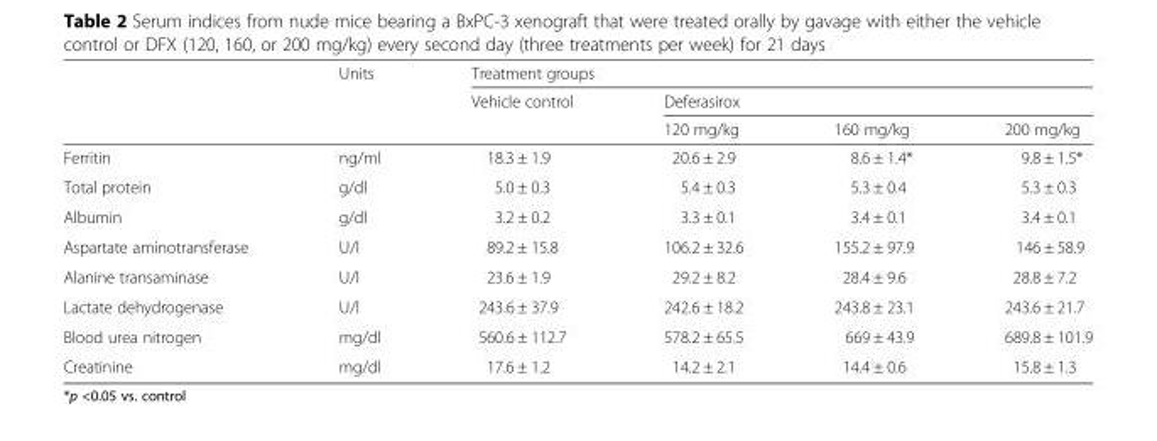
<table><thead><tr><td rowspan="3"></td><td rowspan="3">Units</td><td colspan="4">Treatment groups</td></tr><tr><td rowspan="2">Vehicle control</td><td colspan="3">Deferasirox</td></tr><tr><td>120 mg/kg</td><td>160 mg/kg</td><td>200 mg/kg</td></tr></thead><tbody><tr><td>Ferritin</td><td>ng/ml</td><td>18.3 ± 1.9</td><td>20.6 ± 2.9</td><td>8.6 ± 1.4*</td><td>9.8 ± 1.5*</td></tr><tr><td>Total protein</td><td>g/dl</td><td>5.0 ± 0.3</td><td>5.4 ± 0.3</td><td>5.3 ± 0.4</td><td>5.3 ± 0.3</td></tr><tr><td>Albumin</td><td>g/dl</td><td>3.2 ± 0.2</td><td>3.3 ± 0.1</td><td>3.4 ± 0.1</td><td>3.4 ± 0.1</td></tr><tr><td>Aspartate aminotransferase</td><td>U/l</td><td>89.2 ± 15.8</td><td>106.2 ± 32.6</td><td>155.2 ± 97.9</td><td>146 ± 58.9</td></tr><tr><td>Alanine transaminase</td><td>U/l</td><td>23.6 ± 1.9</td><td>29.2 ± 8.2</td><td>28.4 ± 9.6</td><td>28.8 ± 7.2</td></tr><tr><td>Lactate dehydrogenase</td><td>U/l</td><td>243.6 ± 37.9</td><td>242.6 ± 18.2</td><td>243.8 ± 23.1</td><td>243.6 ± 21.7</td></tr><tr><td>Blood urea nitrogen</td><td>mg/dl</td><td>560.6 ± 112.7</td><td>578.2 ± 65.5</td><td>669 ± 43.9</td><td>689.8 ± 101.9</td></tr><tr><td>Creatinine</td><td>mg/dl</td><td>17.6 ± 1.2</td><td>14.2 ± 2.1</td><td>14.4 ± 0.6</td><td>15.8 ± 1.3</td></tr></tbody></table>